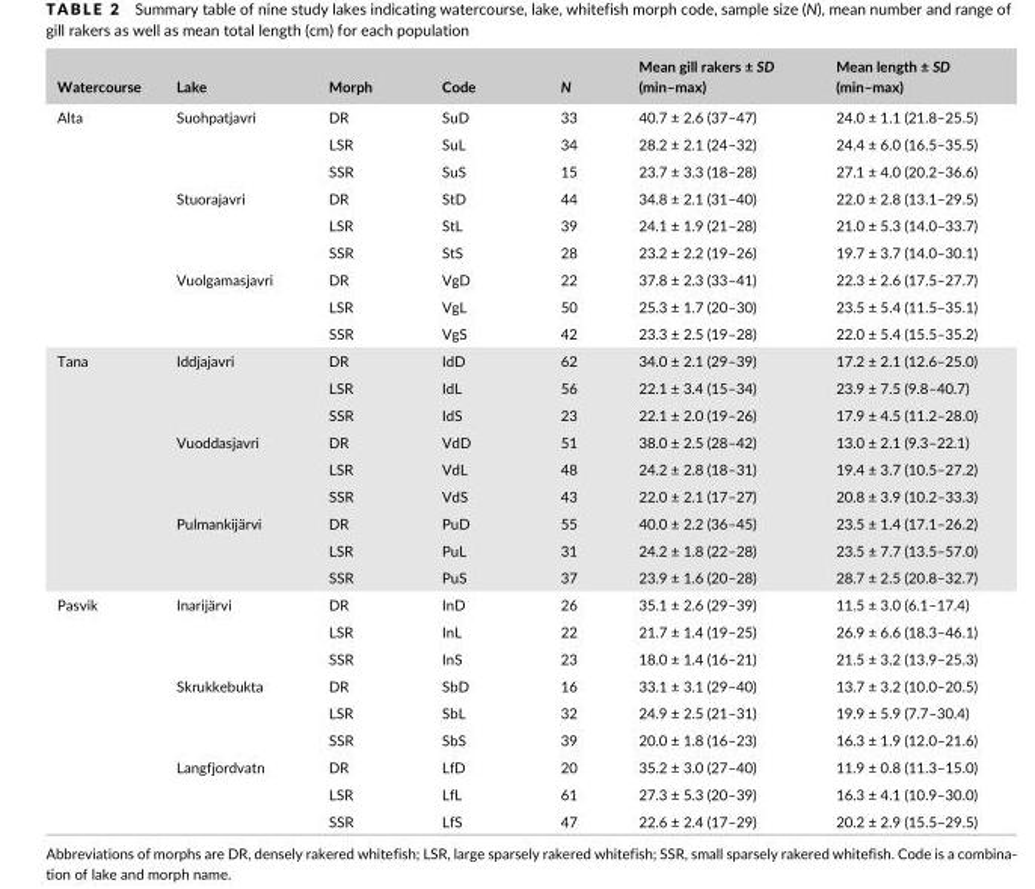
<table><thead><tr><td>Watercourse</td><td>Lake</td><td>Morph</td><td>Code</td><td>N</td><td>Mean gill rakers ± SD (min–max)</td><td>Mean length ± SD (min–max)</td></tr></thead><tbody><tr><td rowspan="9">Alta</td><td rowspan="3">Suohpatjavri</td><td>DR</td><td>SuD</td><td>33</td><td>40.7 ± 2.6 (37–47)</td><td>24.0 ± 1.1 (21.8–25.5)</td></tr><tr><td>LSR</td><td>SuL</td><td>34</td><td>28.2 ± 2.1 (24–32)</td><td>24.4 ± 6.0 (16.5–35.5)</td></tr><tr><td>SSR</td><td>SuS</td><td>15</td><td>23.7 ± 3.3 (18–28)</td><td>27.1 ± 4.0 (20.2–36.6)</td></tr><tr><td rowspan="3">Stuorajavri</td><td>DR</td><td>StD</td><td>44</td><td>34.8 ± 2.1 (31–40)</td><td>22.0 ± 2.8 (13.1–29.5)</td></tr><tr><td>LSR</td><td>StL</td><td>39</td><td>24.1 ± 1.9 (21–28)</td><td>21.0 ± 5.3 (14.0–33.7)</td></tr><tr><td>SSR</td><td>StS</td><td>28</td><td>23.2 ± 2.2 (19–26)</td><td>19.7 ± 3.7 (14.0–30.1)</td></tr><tr><td rowspan="3">Vuolgamasjavri</td><td>DR</td><td>VgD</td><td>22</td><td>37.8 ± 2.3 (33–41)</td><td>22.3 ± 2.6 (17.5–27.7)</td></tr><tr><td>LSR</td><td>VgL</td><td>50</td><td>25.3 ± 1.7 (20–30)</td><td>23.5 ± 5.4 (11.5–35.1)</td></tr><tr><td>SSR</td><td>VgS</td><td>42</td><td>23.3 ± 2.5 (19–28)</td><td>22.0 ± 5.4 (15.5–35.2)</td></tr><tr><td rowspan="9">Tana</td><td rowspan="3">Iddjajavri</td><td>DR</td><td>IdD</td><td>62</td><td>34.0 ± 2.1 (29–39)</td><td>17.2 ± 2.1 (12.6–25.0)</td></tr><tr><td>LSR</td><td>IdL</td><td>56</td><td>22.1 ± 3.4 (15–34)</td><td>23.9 ± 7.5 (9.8–40.7)</td></tr><tr><td>SSR</td><td>IdS</td><td>23</td><td>22.1 ± 2.0 (19–26)</td><td>17.9 ± 4.5 (11.2–28.0)</td></tr><tr><td rowspan="3">Vuoddasjavri</td><td>DR</td><td>VdD</td><td>51</td><td>38.0 ± 2.5 (28–42)</td><td>13.0 ± 2.1 (9.3–22.1)</td></tr><tr><td>LSR</td><td>VdL</td><td>48</td><td>24.2 ± 2.8 (18–31)</td><td>19.4 ± 3.7 (10.5–27.2)</td></tr><tr><td>SSR</td><td>VdS</td><td>43</td><td>22.0 ± 2.1 (17–27)</td><td>20.8 ± 3.9 (10.2–33.3)</td></tr><tr><td rowspan="3">Pulmankijärvi</td><td>DR</td><td>PuD</td><td>55</td><td>40.0 ± 2.2 (36–45)</td><td>23.5 ± 1.4 (17.1–26.2)</td></tr><tr><td>LSR</td><td>PuL</td><td>31</td><td>24.2 ± 1.8 (22–28)</td><td>23.5 ± 7.7 (13.5–57.0)</td></tr><tr><td>SSR</td><td>PuS</td><td>37</td><td>23.9 ± 1.6 (20–28)</td><td>28.7 ± 2.5 (20.8–32.7)</td></tr><tr><td rowspan="9">Pasvik</td><td rowspan="3">Inarijärvi</td><td>DR</td><td>InD</td><td>26</td><td>35.1 ± 2.6 (29–39)</td><td>11.5 ± 3.0 (6.1–17.4)</td></tr><tr><td>LSR</td><td>InL</td><td>22</td><td>21.7 ± 1.4 (19–25)</td><td>26.9 ± 6.6 (18.3–46.1)</td></tr><tr><td>SSR</td><td>InS</td><td>23</td><td>18.0 ± 1.4 (16–21)</td><td>21.5 ± 3.2 (13.9–25.3)</td></tr><tr><td rowspan="3">Skrukkebukta</td><td>DR</td><td>SbD</td><td>16</td><td>33.1 ± 3.1 (29–40)</td><td>13.7 ± 3.2 (10.0–20.5)</td></tr><tr><td>LSR</td><td>SbL</td><td>32</td><td>24.9 ± 2.5 (21–31)</td><td>19.9 ± 5.9 (7.7–30.4)</td></tr><tr><td>SSR</td><td>SbS</td><td>39</td><td>20.0 ± 1.8 (16–23)</td><td>16.3 ± 1.9 (12.0–21.6)</td></tr><tr><td rowspan="3">Langfjordvatn</td><td>DR</td><td>LfD</td><td>20</td><td>35.2 ± 3.0 (27–40)</td><td>11.9 ± 0.8 (11.3–15.0)</td></tr><tr><td>LSR</td><td>LfL</td><td>61</td><td>27.3 ± 5.3 (20–39)</td><td>16.3 ± 4.1 (10.9–30.0)</td></tr><tr><td>SSR</td><td>LfS</td><td>47</td><td>22.6 ± 2.4 (17–29)</td><td>20.2 ± 2.9 (15.5–29.5)</td></tr></tbody></table>